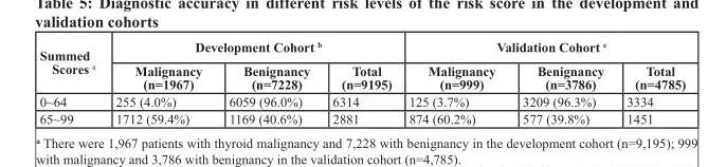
<table><thead><tr><td rowspan="2">Summed Scores <sup>a</sup></td><td colspan="3">Development Cohort <sup>b</sup></td><td colspan="3">Validation Cohort <sup>c</sup></td></tr><tr><td>Malignancy (n=1967)</td><td>Benignancy (n=7228)</td><td>Total (n=9195)</td><td>Malignancy (n=999)</td><td>Benignancy (n=3786)</td><td>Total (n=4785)</td></tr></thead><tbody><tr><td>0~64</td><td>255 (4.0%)</td><td>6059 (96.0%)</td><td>6314</td><td>125 (3.7%)</td><td>3209 (96.3%)</td><td>3334</td></tr><tr><td>65~99</td><td>1712 (59.4%)</td><td>1169 (40.6%)</td><td>2881</td><td>874 (60.2%)</td><td>577 (39.8%)</td><td>1451</td></tr></tbody></table>